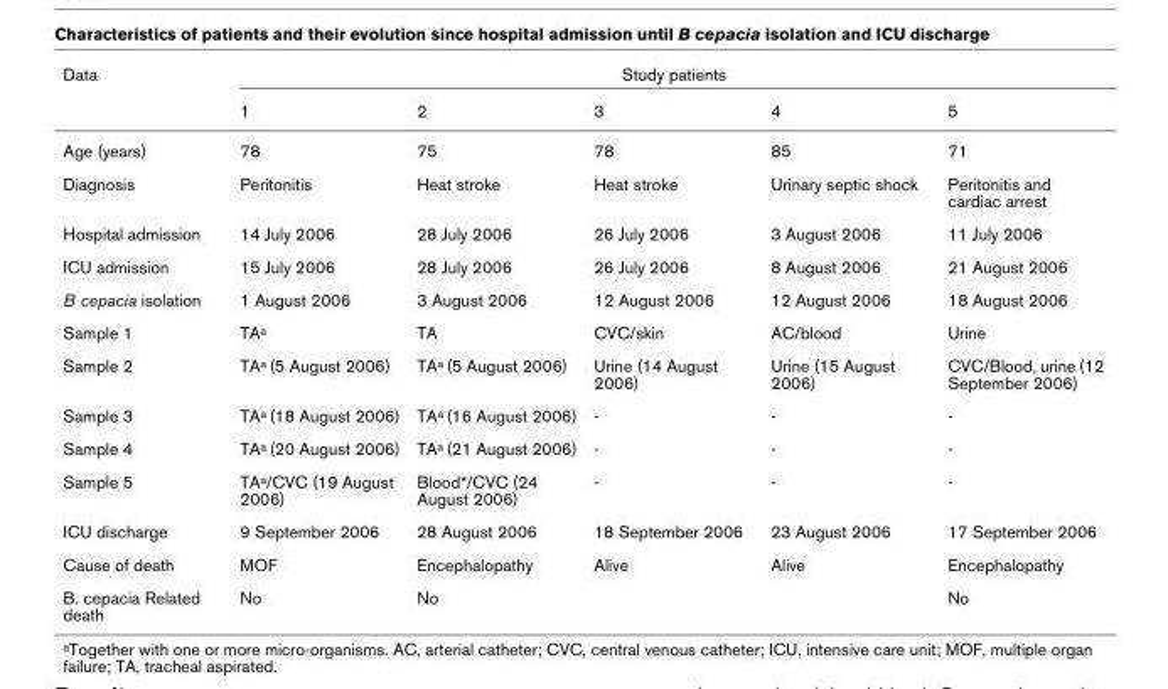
<table><thead><tr><td rowspan="2">Data</td><td colspan="5">Study patients</td></tr><tr><td>1</td><td>2</td><td>3</td><td>4</td><td>5</td></tr></thead><tbody><tr><td>Age (years)</td><td>78</td><td>75</td><td>78</td><td>85</td><td>71</td></tr><tr><td>Diagnosis</td><td>Peritonitis</td><td>Heat stroke</td><td>Heat stroke</td><td>Urinary septic shock</td><td>Peritonitis and cardiac arrest</td></tr><tr><td>Hospital admission</td><td>14 July 2006</td><td>28 July 2006</td><td>26 July 2006</td><td>3 August 2006</td><td>11 July 2006</td></tr><tr><td>ICU admission</td><td>15 July 2006</td><td>28 July 2006</td><td>26 July 2006</td><td>8 August 2006</td><td>21 August 2006</td></tr><tr><td>B cepacia isolation</td><td>1 August 2006</td><td>3 August 2006</td><td>12 August 2006</td><td>12 August 2006</td><td>18 August 2006</td></tr><tr><td>Sample 1</td><td>TA<sup>a</sup></td><td>TA</td><td>CVC/skin</td><td>AC/blood</td><td>Urine</td></tr><tr><td>Sample 2</td><td>TA<sup>a</sup> (5 August 2006)</td><td>TA<sup>a</sup> (5 August 2006)</td><td>Urine (14 August 2006)</td><td>Urine (15 August 2006)</td><td>CVC/Blood, urine (12 September 2006)</td></tr><tr><td>Sample 3</td><td>TA<sup>a</sup> (18 August 2006)</td><td>TA<sup>a</sup> (16 August 2006)</td><td>-</td><td>-</td><td>-</td></tr><tr><td>Sample 4</td><td>TA<sup>a</sup> (20 August 2006)</td><td>TA<sup>a</sup> (21 August 2006)</td><td>-</td><td>-</td><td>-</td></tr><tr><td>Sample 5</td><td>TA<sup>a</sup>/CVC (19 August 2006)</td><td>Blood*/CVC (24 August 2006)</td><td>-</td><td>-</td><td>-</td></tr><tr><td>ICU discharge</td><td>9 September 2006</td><td>28 August 2006</td><td>18 September 2006</td><td>23 August 2006</td><td>17 September 2006</td></tr><tr><td>Cause of death</td><td>MOF</td><td>Encephalopathy</td><td>Alive</td><td>Alive</td><td>Encephalopathy</td></tr><tr><td>B. cepacia Related death</td><td>No</td><td>No</td><td></td><td></td><td>No</td></tr></tbody></table>